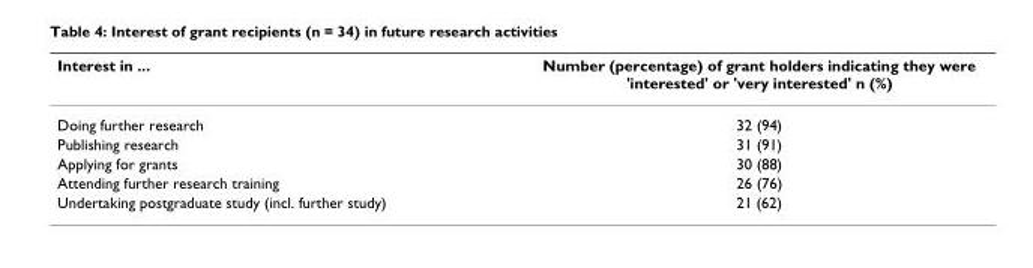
<table><thead><tr><td>Interest in ...</td><td>Number (percentage) of grant holders indicating they were &#x27;interested&#x27; or &#x27;very interested&#x27; n (%)</td></tr></thead><tbody><tr><td>Doing further research</td><td>32 (94)</td></tr><tr><td>Publishing research</td><td>31 (91)</td></tr><tr><td>Applying for grants</td><td>30 (88)</td></tr><tr><td>Attending further research training</td><td>26 (76)</td></tr><tr><td>Undertaking postgraduate study (incl. further study)</td><td>21 (62)</td></tr></tbody></table>